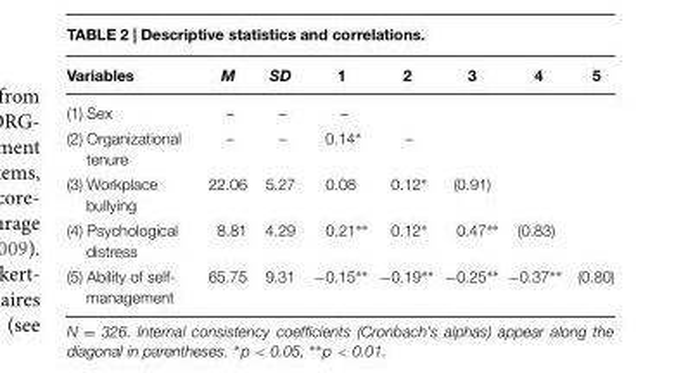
<table><thead><tr><td>Variables</td><td>M</td><td>SD</td><td>1</td><td>2</td><td>3</td><td>4</td><td>5</td></tr></thead><tbody><tr><td>(1) Sex</td><td>–</td><td>–</td><td>–</td><td></td><td></td><td></td><td></td></tr><tr><td>(2) Organizational tenure</td><td>–</td><td>–</td><td>0.14∗</td><td>–</td><td></td><td></td><td></td></tr><tr><td>(3) Workplace bullying</td><td>22.06</td><td>5.27</td><td>0.08</td><td>0.12∗</td><td>(0.91)</td><td></td><td></td></tr><tr><td>(4) Psychological distress</td><td>8.81</td><td>4.29</td><td>0.21∗∗</td><td>0.12∗</td><td>0.47∗∗</td><td>(0.83)</td><td></td></tr><tr><td>(5) Ability of self- management</td><td>65.75</td><td>9.31</td><td>−0.15∗∗</td><td>−0.19∗∗</td><td>−0.25∗∗</td><td>−0.37∗∗</td><td>(0.80)</td></tr></tbody></table>